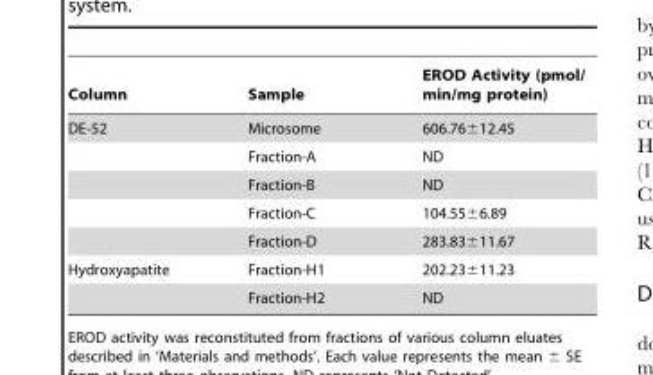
<table><thead><tr><td>Column</td><td>Sample</td><td>EROD Activity (pmol/ min/mg protein)</td></tr></thead><tbody><tr><td rowspan="5">DE-52</td><td>Microsome</td><td>606.76±12.45</td></tr><tr><td>Fraction-A</td><td>ND</td></tr><tr><td>Fraction-B</td><td>ND</td></tr><tr><td>Fraction-C</td><td>104.55±6.89</td></tr><tr><td>Fraction-D</td><td>283.83±11.67</td></tr><tr><td rowspan="2">Hydroxyapatite</td><td>Fraction-H1</td><td>202.23±11.23</td></tr><tr><td>Fraction-H2</td><td>ND</td></tr></tbody></table>